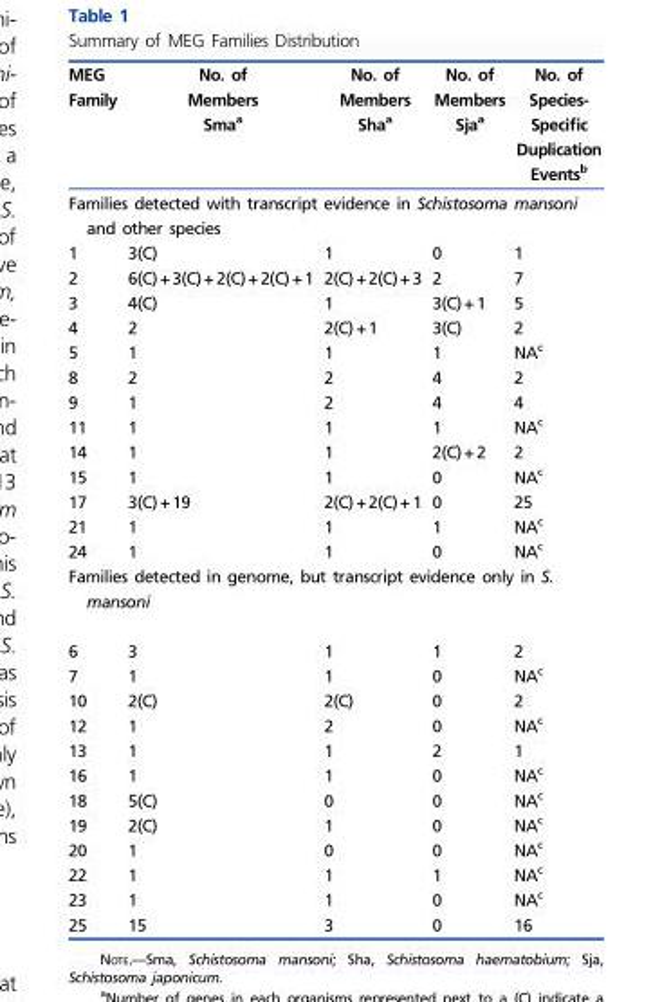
<table><thead><tr><td>MEG Family</td><td>No. of Members Sma<sup>a</sup></td><td>No. of Members Sha<sup>a</sup></td><td>No. of Members Sja<sup>a</sup></td><td>No. of Species- Specific Duplication Events<sup>b</sup></td></tr></thead><tbody><tr><td colspan="5">Families detected with transcript evidence in Schistosoma mansoni and other species</td></tr><tr><td>1</td><td>3(C)</td><td>1</td><td>0</td><td>1</td></tr><tr><td>2</td><td>6(C)+3(C)+2(C)+2(C)+1</td><td>2(C)+2(C)+3</td><td>2</td><td>7</td></tr><tr><td>3</td><td>4(C)</td><td>1</td><td>3(C)+1</td><td>5</td></tr><tr><td>4</td><td>2</td><td>2(C)+1</td><td>3(C)</td><td>2</td></tr><tr><td>5</td><td>1</td><td>1</td><td>1</td><td>NA<sup>c</sup></td></tr><tr><td>8</td><td>2</td><td>2</td><td>4</td><td>2</td></tr><tr><td>9</td><td>1</td><td>2</td><td>4</td><td>4</td></tr><tr><td>11</td><td>1</td><td>1</td><td>1</td><td>NA<sup>c</sup></td></tr><tr><td>14</td><td>1</td><td>1</td><td>2(C)+2</td><td>2</td></tr><tr><td>15</td><td>1</td><td>1</td><td>0</td><td>NA<sup>c</sup></td></tr><tr><td>17</td><td>3(C)+19</td><td>2(C)+2(C)+1</td><td>0</td><td>25</td></tr><tr><td>21</td><td>1</td><td>1</td><td>1</td><td>NA<sup>c</sup></td></tr><tr><td>24</td><td>1</td><td>1</td><td>0</td><td>NA<sup>c</sup></td></tr><tr><td colspan="5">Families detected in genome, but transcript evidence only in S. mansoni</td></tr><tr><td>6</td><td>3</td><td>1</td><td>1</td><td>2</td></tr><tr><td>7</td><td>1</td><td>1</td><td>0</td><td>NA<sup>c</sup></td></tr><tr><td>10</td><td>2(C)</td><td>2(C)</td><td>0</td><td>2</td></tr><tr><td>12</td><td>1</td><td>2</td><td>0</td><td>NA<sup>c</sup></td></tr><tr><td>13</td><td>1</td><td>1</td><td>2</td><td>1</td></tr><tr><td>16</td><td>1</td><td>1</td><td>0</td><td>NA<sup>c</sup></td></tr><tr><td>18</td><td>5(C)</td><td>0</td><td>0</td><td>NA<sup>c</sup></td></tr><tr><td>19</td><td>2(C)</td><td>1</td><td>0</td><td>NA<sup>c</sup></td></tr><tr><td>20</td><td>1</td><td>0</td><td>0</td><td>NA<sup>c</sup></td></tr><tr><td>22</td><td>1</td><td>1</td><td>1</td><td>NA<sup>c</sup></td></tr><tr><td>23</td><td>1</td><td>1</td><td>0</td><td>NA<sup>c</sup></td></tr><tr><td>25</td><td>15</td><td>3</td><td>0</td><td>16</td></tr></tbody></table>